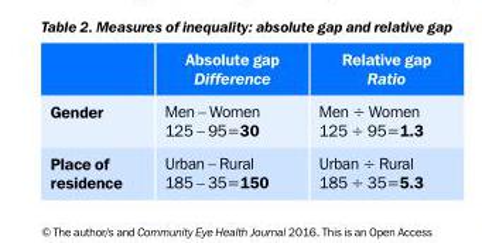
<table><thead><tr><td></td><td>Absolute gap Difference</td><td>Relative gap Ratio</td></tr></thead><tbody><tr><td>Gender</td><td>Men – Women 125 – 95=30</td><td>Men ÷ Women 125 ÷ 95=1.3</td></tr><tr><td>Place of residence</td><td>Urban – Rural 185 – 35=150</td><td>Urban ÷ Rural 185 ÷ 35=5.3</td></tr></tbody></table>